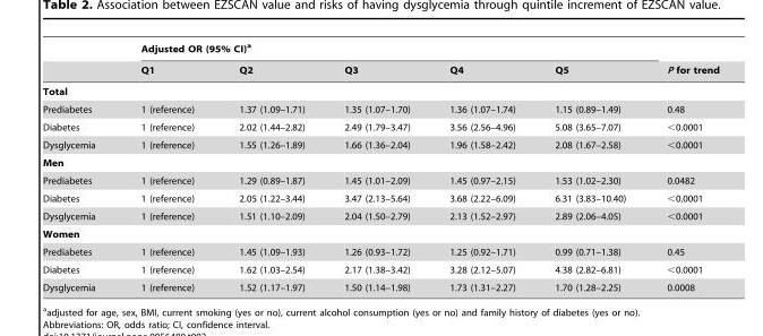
<table><thead><tr><td rowspan="2"></td><td colspan="5">Adjusted OR (95% CI)<sup>a</sup></td><td rowspan="2">P for trend</td></tr><tr><td>Q1</td><td>Q2</td><td>Q3</td><td>Q4</td><td>Q5</td></tr></thead><tbody><tr><td colspan="7">Total</td></tr><tr><td>Prediabetes</td><td>1 (reference)</td><td>1.37 (1.09–1.71)</td><td>1.35 (1.07–1.70)</td><td>1.36 (1.07–1.74)</td><td>1.15 (0.89–1.49)</td><td>0.48</td></tr><tr><td>Diabetes</td><td>1 (reference)</td><td>2.02 (1.44–2.82)</td><td>2.49 (1.79–3.47)</td><td>3.56 (2.56–4.96)</td><td>5.08 (3.65–7.07)</td><td>&lt;0.0001</td></tr><tr><td>Dysglycemia</td><td>1 (reference)</td><td>1.55 (1.26–1.89)</td><td>1.66 (1.36–2.04)</td><td>1.96 (1.58–2.42)</td><td>2.08 (1.67–2.58)</td><td>&lt;0.0001</td></tr><tr><td colspan="7">Men</td></tr><tr><td>Prediabetes</td><td>1 (reference)</td><td>1.29 (0.89–1.87)</td><td>1.45 (1.01–2.09)</td><td>1.45 (0.97–2.15)</td><td>1.53 (1.02–2.30)</td><td>0.0482</td></tr><tr><td>Diabetes</td><td>1 (reference)</td><td>2.05 (1.22–3.44)</td><td>3.47 (2.13–5.64)</td><td>3.68 (2.22–6.09)</td><td>6.31 (3.83–10.40)</td><td>&lt;0.0001</td></tr><tr><td>Dysglycemia</td><td>1 (reference)</td><td>1.51 (1.10–2.09)</td><td>2.04 (1.50–2.79)</td><td>2.13 (1.52–2.97)</td><td>2.89 (2.06–4.05)</td><td>&lt;0.0001</td></tr><tr><td colspan="7">Women</td></tr><tr><td>Prediabetes</td><td>1 (reference)</td><td>1.45 (1.09–1.93)</td><td>1.26 (0.93–1.72)</td><td>1.25 (0.92–1.71)</td><td>0.99 (0.71–1.38)</td><td>0.45</td></tr><tr><td>Diabetes</td><td>1 (reference)</td><td>1.62 (1.03–2.54)</td><td>2.17 (1.38–3.42)</td><td>3.28 (2.12–5.07)</td><td>4.38 (2.82–6.81)</td><td>&lt;0.0001</td></tr><tr><td>Dysglycemia</td><td>1 (reference)</td><td>1.52 (1.17–1.97)</td><td>1.50 (1.14–1.98)</td><td>1.73 (1.31–2.27)</td><td>1.70 (1.28–2.25)</td><td>0.0008</td></tr></tbody></table>